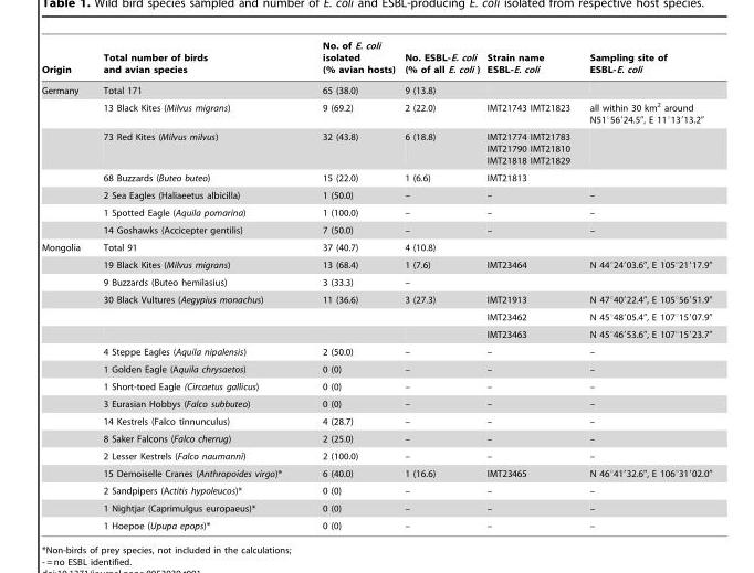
<table><thead><tr><td>Origin</td><td>Total number of birds and avian species</td><td>No. of E. coli isolated (% avian hosts)</td><td>No. ESBL-E. coli (% of all E. coli )</td><td>Strain name ESBL-E. coli</td><td>Sampling site of ESBL-E. coli</td></tr></thead><tbody><tr><td rowspan="7">Germany</td><td>Total 171</td><td>65 (38.0)</td><td>9 (13.8)</td><td></td><td></td></tr><tr><td>13 Black Kites (Milvus migrans)</td><td>9 (69.2)</td><td>2 (22.0)</td><td>IMT21743 IMT21823</td><td>all within 30 km<sup>2</sup> around N51°56′24.5″, E 11°13′13.2″</td></tr><tr><td>73 Red Kites (Milvus milvus)</td><td>32 (43.8)</td><td>6 (18.8)</td><td>IMT21774 IMT21783 IMT21790 IMT21810 IMT21818 IMT21829</td><td></td></tr><tr><td>68 Buzzards (Buteo buteo)</td><td>15 (22.0)</td><td>1 (6.6)</td><td>IMT21813</td><td></td></tr><tr><td>2 Sea Eagles (Haliaeetus albicilla)</td><td>1 (50.0)</td><td>–</td><td>–</td><td>–</td></tr><tr><td>1 Spotted Eagle (Aquila pomarina)</td><td>1 (100.0)</td><td>–</td><td>–</td><td>–</td></tr><tr><td>14 Goshawks (Accicepter gentilis)</td><td>7 (50.0)</td><td>–</td><td>–</td><td>–</td></tr><tr><td rowspan="17">Mongolia</td><td>Total 91</td><td>37 (40.7)</td><td>4 (10.8)</td><td></td><td></td></tr><tr><td>19 Black Kites (Milvus migrans)</td><td>13 (68.4)</td><td>1 (7.6)</td><td>IMT23464</td><td>N 44°24′03.6″, E 105°21′17.9″</td></tr><tr><td>9 Buzzards (Buteo hemilasius)</td><td>3 (33.3)</td><td>–</td><td></td><td></td></tr><tr><td>30 Black Vultures (Aegypius monachus)</td><td>11 (36.6)</td><td>3 (27.3)</td><td>IMT21913</td><td>N 47°40′22.4″, E 105°56′51.9″</td></tr><tr><td></td><td></td><td></td><td>IMT23462</td><td>N 45°48′05.4″, E 107°15′07.9″</td></tr><tr><td></td><td></td><td></td><td>IMT23463</td><td>N 45°46′53.6″, E 107°15′23.7″</td></tr><tr><td>4 Steppe Eagles (Aquila nipalensis)</td><td>2 (50.0)</td><td>–</td><td>–</td><td>–</td></tr><tr><td>1 Golden Eagle (Aquila chrysaetos)</td><td>0 (0)</td><td>–</td><td>–</td><td>–</td></tr><tr><td>1 Short-toed Eagle (Circaetus gallicus)</td><td>0 (0)</td><td>–</td><td>–</td><td>–</td></tr><tr><td>3 Eurasian Hobbys (Falco subbuteo)</td><td>0 (0)</td><td>–</td><td>–</td><td>–</td></tr><tr><td>14 Kestrels (Falco tinnunculus)</td><td>4 (28.7)</td><td>–</td><td>–</td><td>–</td></tr><tr><td>8 Saker Falcons (Falco cherrug)</td><td>2 (25.0)</td><td>–</td><td>–</td><td>–</td></tr><tr><td>2 Lesser Kestrels (Falco naumanni)</td><td>2 (100.0)</td><td>–</td><td>–</td><td>–</td></tr><tr><td>15 Demoiselle Cranes (Anthropoides virgo)*</td><td>6 (40.0)</td><td>1 (16.6)</td><td>IMT23465</td><td>N 46°41′32.6″, E 106°31′02.0″</td></tr><tr><td>2 Sandpipers (Actitis hypoleucos)*</td><td>0 (0)</td><td>–</td><td>–</td><td>–</td></tr><tr><td>1 Nightjar (Caprimulgus europaeus)*</td><td>0 (0)</td><td>–</td><td>–</td><td>–</td></tr><tr><td>1 Hoepoe (Upupa epops)*</td><td>0 (0)</td><td>–</td><td>–</td><td>–</td></tr></tbody></table>